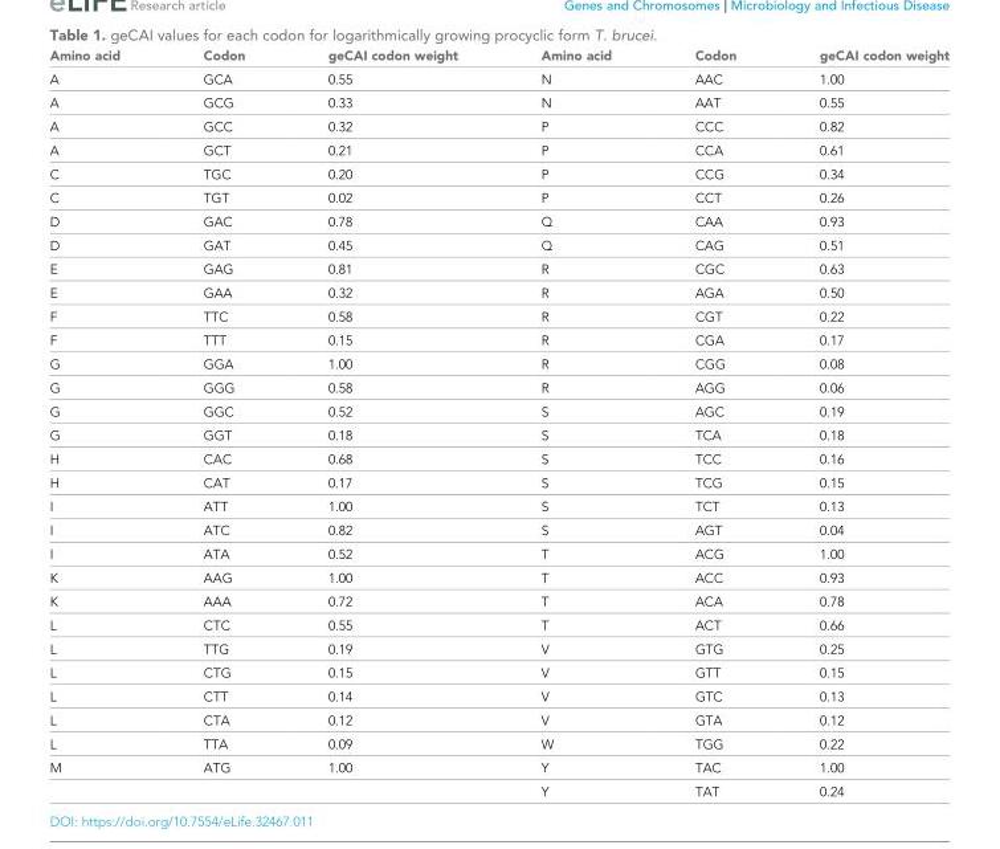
<table><thead><tr><td>Amino acid</td><td>Codon</td><td>geCAI codon weight</td><td>Amino acid</td><td>Codon</td><td>geCAI codon weight</td></tr></thead><tbody><tr><td>A</td><td>GCA</td><td>0.55</td><td>N</td><td>AAC</td><td>1.00</td></tr><tr><td>A</td><td>GCG</td><td>0.33</td><td>N</td><td>AAT</td><td>0.55</td></tr><tr><td>A</td><td>GCC</td><td>0.32</td><td>P</td><td>CCC</td><td>0.82</td></tr><tr><td>A</td><td>GCT</td><td>0.21</td><td>P</td><td>CCA</td><td>0.61</td></tr><tr><td>C</td><td>TGC</td><td>0.20</td><td>P</td><td>CCG</td><td>0.34</td></tr><tr><td>C</td><td>TGT</td><td>0.02</td><td>P</td><td>CCT</td><td>0.26</td></tr><tr><td>D</td><td>GAC</td><td>0.78</td><td>Q</td><td>CAA</td><td>0.93</td></tr><tr><td>D</td><td>GAT</td><td>0.45</td><td>Q</td><td>CAG</td><td>0.51</td></tr><tr><td>E</td><td>GAG</td><td>0.81</td><td>R</td><td>CGC</td><td>0.63</td></tr><tr><td>E</td><td>GAA</td><td>0.32</td><td>R</td><td>AGA</td><td>0.50</td></tr><tr><td>F</td><td>TTC</td><td>0.58</td><td>R</td><td>CGT</td><td>0.22</td></tr><tr><td>F</td><td>TTT</td><td>0.15</td><td>R</td><td>CGA</td><td>0.17</td></tr><tr><td>G</td><td>GGA</td><td>1.00</td><td>R</td><td>CGG</td><td>0.08</td></tr><tr><td>G</td><td>GGG</td><td>0.58</td><td>R</td><td>AGG</td><td>0.06</td></tr><tr><td>G</td><td>GGC</td><td>0.52</td><td>S</td><td>AGC</td><td>0.19</td></tr><tr><td>G</td><td>GGT</td><td>0.18</td><td>S</td><td>TCA</td><td>0.18</td></tr><tr><td>H</td><td>CAC</td><td>0.68</td><td>S</td><td>TCC</td><td>0.16</td></tr><tr><td>H</td><td>CAT</td><td>0.17</td><td>S</td><td>TCG</td><td>0.15</td></tr><tr><td>I</td><td>ATT</td><td>1.00</td><td>S</td><td>TCT</td><td>0.13</td></tr><tr><td>I</td><td>ATC</td><td>0.82</td><td>S</td><td>AGT</td><td>0.04</td></tr><tr><td>I</td><td>ATA</td><td>0.52</td><td>T</td><td>ACG</td><td>1.00</td></tr><tr><td>K</td><td>AAG</td><td>1.00</td><td>T</td><td>ACC</td><td>0.93</td></tr><tr><td>K</td><td>AAA</td><td>0.72</td><td>T</td><td>ACA</td><td>0.78</td></tr><tr><td>L</td><td>CTC</td><td>0.55</td><td>T</td><td>ACT</td><td>0.66</td></tr><tr><td>L</td><td>TTG</td><td>0.19</td><td>V</td><td>GTG</td><td>0.25</td></tr><tr><td>L</td><td>CTG</td><td>0.15</td><td>V</td><td>GTT</td><td>0.15</td></tr><tr><td>L</td><td>CTT</td><td>0.14</td><td>V</td><td>GTC</td><td>0.13</td></tr><tr><td>L</td><td>CTA</td><td>0.12</td><td>V</td><td>GTA</td><td>0.12</td></tr><tr><td>L</td><td>TTA</td><td>0.09</td><td>W</td><td>TGG</td><td>0.22</td></tr><tr><td rowspan="2">M</td><td>ATG</td><td>1.00</td><td>Y</td><td>TAC</td><td>1.00</td></tr><tr><td></td><td></td><td>Y</td><td>TAT</td><td>0.24</td></tr></tbody></table>